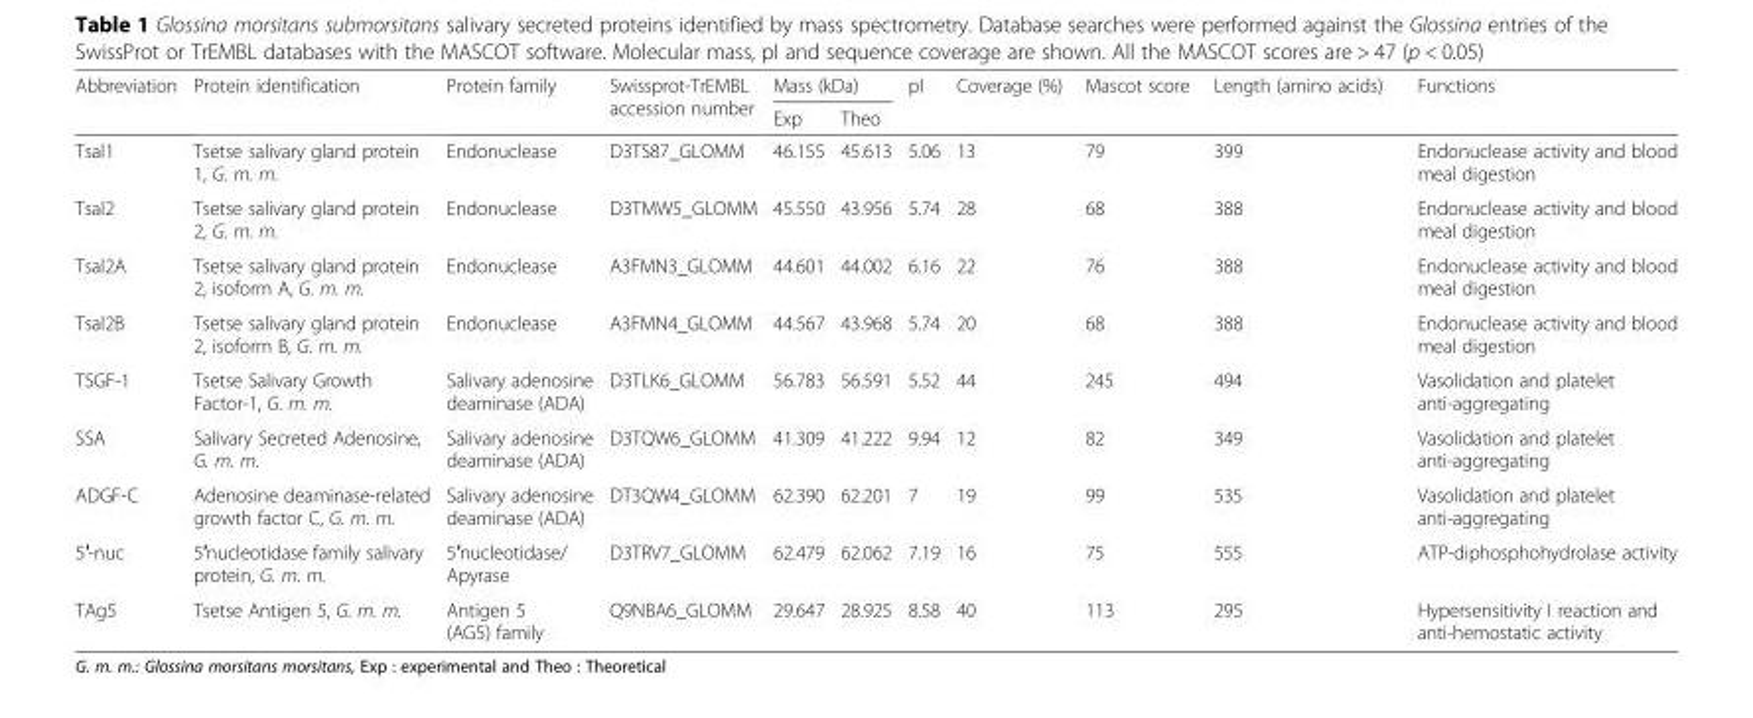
<table><thead><tr><td rowspan="2">Abbreviation</td><td rowspan="2">Protein identification</td><td rowspan="2">Protein family</td><td rowspan="2">Swissprot-TrEMBL accession number</td><td colspan="2">Mass (kDa)</td><td rowspan="2">pI</td><td rowspan="2">Coverage (%)</td><td rowspan="2">Mascot score</td><td rowspan="2">Length (amino acids)</td><td rowspan="2">Functions</td></tr><tr><td>Exp</td><td>Theo</td></tr></thead><tbody><tr><td>Tsal1</td><td>Tsetse salivary gland protein 1, G. m. m.</td><td>Endonuclease</td><td>D3TS87_GLOMM</td><td>46.155</td><td>45.613</td><td>5.06</td><td>13</td><td>79</td><td>399</td><td>Endonuclease activity and blood meal digestion</td></tr><tr><td>Tsal2</td><td>Tsetse salivary gland protein 2, G. m. m.</td><td>Endonuclease</td><td>D3TMW5_GLOMM</td><td>45.550</td><td>43.956</td><td>5.74</td><td>28</td><td>68</td><td>388</td><td>Endonuclease activity and blood meal digestion</td></tr><tr><td>Tsal2A</td><td>Tsetse salivary gland protein 2, isoform A, G. m. m.</td><td>Endonuclease</td><td>A3FMN3_GLOMM</td><td>44.601</td><td>44.002</td><td>6.16</td><td>22</td><td>76</td><td>388</td><td>Endonuclease activity and blood meal digestion</td></tr><tr><td>Tsal2B</td><td>Tsetse salivary gland protein 2, isoform B, G. m. m.</td><td>Endonuclease</td><td>A3FMN4_GLOMM</td><td>44.567</td><td>43.968</td><td>5.74</td><td>20</td><td>68</td><td>388</td><td>Endonuclease activity and blood meal digestion</td></tr><tr><td>TSGF-1</td><td>Tsetse Salivary Growth Factor-1, G. m. m.</td><td>Salivary adenosine deaminase (ADA)</td><td>D3TLK6_GLOMM</td><td>56.783</td><td>56.591</td><td>5.52</td><td>44</td><td>245</td><td>494</td><td>Vasolidation and platelet anti-aggregating</td></tr><tr><td>SSA</td><td>Salivary Secreted Adenosine, G. m. m.</td><td>Salivary adenosine deaminase (ADA)</td><td>D3TQW6_GLOMM</td><td>41.309</td><td>41.222</td><td>9.94</td><td>12</td><td>82</td><td>349</td><td>Vasolidation and platelet anti-aggregating</td></tr><tr><td>ADGF-C</td><td>Adenosine deaminase-related growth factor C, G. m. m.</td><td>Salivary adenosine deaminase (ADA)</td><td>DT3QW4_GLOMM</td><td>62.390</td><td>62.201</td><td>7</td><td>19</td><td>99</td><td>535</td><td>Vasolidation and platelet anti-aggregating</td></tr><tr><td>5′-nuc</td><td>5′nucleotidase family salivary protein, G. m. m.</td><td>5′nucleotidase/ Apyrase</td><td>D3TRV7_GLOMM</td><td>62.479</td><td>62.062</td><td>7.19</td><td>16</td><td>75</td><td>555</td><td>ATP-diphosphohydrolase activity</td></tr><tr><td>TAg5</td><td>Tsetse Antigen 5, G. m. m.</td><td>Antigen 5 (AG5) family</td><td>Q9NBA6_GLOMM</td><td>29.647</td><td>28.925</td><td>8.58</td><td>40</td><td>113</td><td>295</td><td>Hypersensitivity I reaction and anti-hemostatic activity</td></tr></tbody></table>